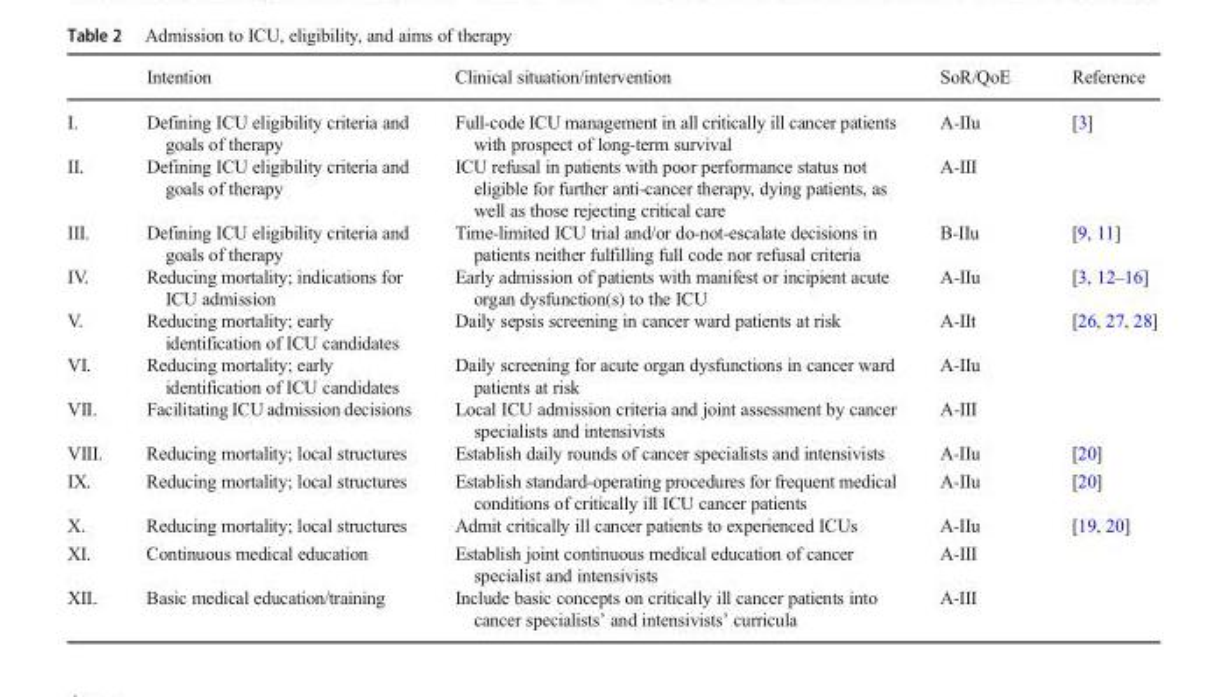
<table><thead><tr><td></td><td>Intention</td><td>Clinical situation/intervention</td><td>SoR/QoE</td><td>Reference</td></tr></thead><tbody><tr><td>I.</td><td>Defining ICU eligibility criteria and goals of therapy</td><td>Full-code ICU management in all critically ill cancer patients with prospect of long-term survival</td><td>A-IIu</td><td>[3]</td></tr><tr><td>II.</td><td>Defining ICU eligibility criteria and goals of therapy</td><td>ICU refusal in patients with poor performance status not eligible for further anti-cancer therapy, dying patients, as well as those rejecting critical care</td><td>A-III</td><td></td></tr><tr><td>III.</td><td>Defining ICU eligibility criteria and goals of therapy</td><td>Time-limited ICU trial and/or do-not-escalate decisions in patients neither fulfilling full code nor refusal criteria</td><td>B-IIu</td><td>[9, 11]</td></tr><tr><td>IV.</td><td>Reducing mortality; indications for ICU admission</td><td>Early admission of patients with manifest or incipient acute organ dysfunction(s) to the ICU</td><td>A-IIu</td><td>[3, 12–16]</td></tr><tr><td>V.</td><td>Reducing mortality; early identification of ICU candidates</td><td>Daily sepsis screening in cancer ward patients at risk</td><td>A-IIt</td><td>[26, 27, 28]</td></tr><tr><td>VI.</td><td>Reducing mortality; early identification of ICU candidates</td><td>Daily screening for acute organ dysfunctions in cancer ward patients at risk</td><td>A-IIu</td><td></td></tr><tr><td>VII.</td><td>Facilitating ICU admission decisions</td><td>Local ICU admission criteria and joint assessment by cancer specialists and intensivists</td><td>A-III</td><td></td></tr><tr><td>VIII.</td><td>Reducing mortality; local structures</td><td>Establish daily rounds of cancer specialists and intensivists</td><td>A-IIu</td><td>[20]</td></tr><tr><td>IX.</td><td>Reducing mortality; local structures</td><td>Establish standard-operating procedures for frequent medical conditions of critically ill ICU cancer patients</td><td>A-IIu</td><td>[20]</td></tr><tr><td>X.</td><td>Reducing mortality; local structures</td><td>Admit critically ill cancer patients to experienced ICUs</td><td>A-IIu</td><td>[19, 20]</td></tr><tr><td>XI.</td><td>Continuous medical education</td><td>Establish joint continuous medical education of cancer specialist and intensivists</td><td>A-III</td><td></td></tr><tr><td>XII.</td><td>Basic medical education/training</td><td>Include basic concepts on critically ill cancer patients into cancer specialists’ and intensivists’ curricula</td><td>A-III</td><td></td></tr></tbody></table>